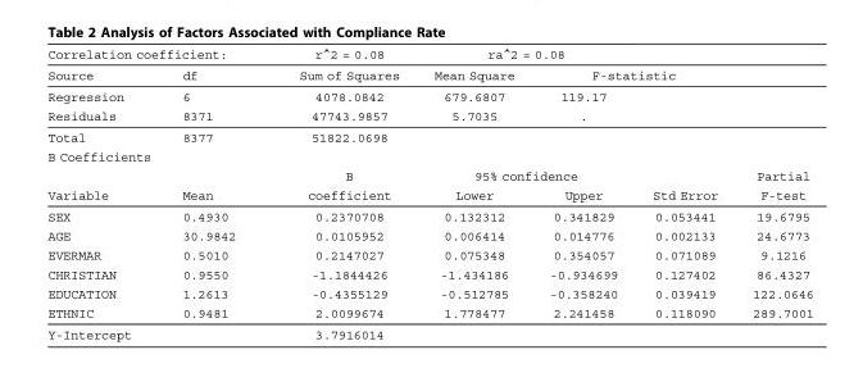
<table><thead><tr><td colspan="2">Correlation coefficient:</td><td rowspan="3">r^2 = 0.08 Sum of Squares 4078.0842</td><td colspan="2">ra^2 = 0.08</td><td></td><td rowspan="3"></td></tr><tr><td rowspan="2">Source Regression</td><td rowspan="2">df 6</td><td rowspan="2">Mean Square 679.6807</td><td colspan="2">F-statistic</td></tr><tr><td>119.17</td><td></td></tr></thead><tbody><tr><td>Residuals</td><td>8371</td><td>47743.9857</td><td>5.7035</td><td>.</td><td></td><td></td></tr><tr><td>Total</td><td>8377</td><td>51822.0698</td><td></td><td></td><td></td><td></td></tr><tr><td colspan="7">B Coefficients</td></tr><tr><td></td><td></td><td>B</td><td colspan="2">95% confidence</td><td></td><td>Partial</td></tr><tr><td>Variable</td><td>Mean</td><td>coefficient</td><td>Lower</td><td>Upper</td><td>Std Error</td><td>F-test</td></tr><tr><td>SEX</td><td>0.4930</td><td>0.2370708</td><td>0.132312</td><td>0.341829</td><td>0.053441</td><td>19.6795</td></tr><tr><td>AGE</td><td>30.9842</td><td>0.0105952</td><td>0.006414</td><td>0.014776</td><td>0.002133</td><td>24.6773</td></tr><tr><td>EVERMAR</td><td>0.5010</td><td>0.2147027</td><td>0.075348</td><td>0.354057</td><td>0.071089</td><td>9.1216</td></tr><tr><td>CHRISTIAN</td><td>0.9550</td><td>-1.1844426</td><td>-1.434186</td><td>-0.934699</td><td>0.127402</td><td>86.4327</td></tr><tr><td>EDUCATION</td><td>1.2613</td><td>-0.4355129</td><td>-0.512785</td><td>-0.358240</td><td>0.039419</td><td>122.0646</td></tr><tr><td>ETHNIC</td><td>0.9481</td><td>2.0099674</td><td>1.778477</td><td>2.241458</td><td>0.118090</td><td>289.7001</td></tr><tr><td>Y-Intercept</td><td></td><td>3.7916014</td><td></td><td></td><td></td><td></td></tr></tbody></table>